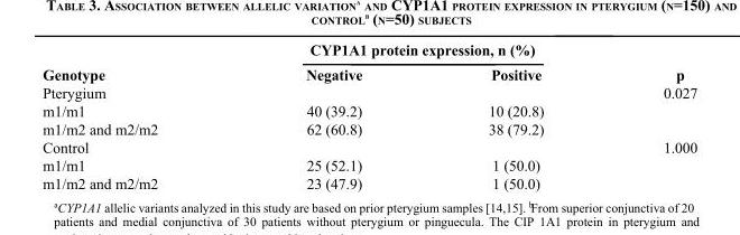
<table><thead><tr><td rowspan="2">Genotype</td><td colspan="2">CYP1A1 protein expression, n (%)</td><td rowspan="2">p</td></tr><tr><td>Negative</td><td>Positive</td></tr></thead><tbody><tr><td>Pterygium</td><td></td><td></td><td>0.027</td></tr><tr><td>m1/m1</td><td>40 (39.2)</td><td>10 (20.8)</td><td></td></tr><tr><td>m1/m2 and m2/m2</td><td>62 (60.8)</td><td>38 (79.2)</td><td></td></tr><tr><td>Control</td><td></td><td></td><td>1.000</td></tr><tr><td>m1/m1</td><td>25 (52.1)</td><td>1 (50.0)</td><td></td></tr><tr><td>m1/m2 and m2/m2</td><td>23 (47.9)</td><td>1 (50.0)</td><td></td></tr></tbody></table>